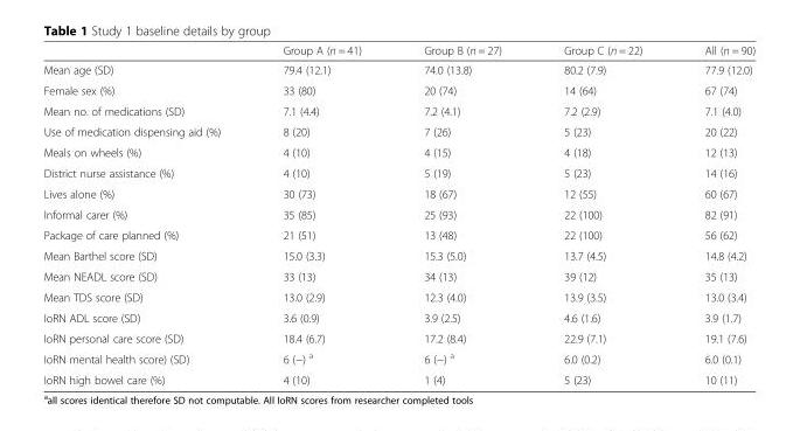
<table><thead><tr><td></td><td>Group A (n = 41)</td><td>Group B (n = 27)</td><td>Group C (n = 22)</td><td>All (n = 90)</td></tr></thead><tbody><tr><td>Mean age (SD)</td><td>79.4 (12.1)</td><td>74.0 (13.8)</td><td>80.2 (7.9)</td><td>77.9 (12.0)</td></tr><tr><td>Female sex (%)</td><td>33 (80)</td><td>20 (74)</td><td>14 (64)</td><td>67 (74)</td></tr><tr><td>Mean no. of medications (SD)</td><td>7.1 (4.4)</td><td>7.2 (4.1)</td><td>7.2 (2.9)</td><td>7.1 (4.0)</td></tr><tr><td>Use of medication dispensing aid (%)</td><td>8 (20)</td><td>7 (26)</td><td>5 (23)</td><td>20 (22)</td></tr><tr><td>Meals on wheels (%)</td><td>4 (10)</td><td>4 (15)</td><td>4 (18)</td><td>12 (13)</td></tr><tr><td>District nurse assistance (%)</td><td>4 (10)</td><td>5 (19)</td><td>5 (23)</td><td>14 (16)</td></tr><tr><td>Lives alone (%)</td><td>30 (73)</td><td>18 (67)</td><td>12 (55)</td><td>60 (67)</td></tr><tr><td>Informal carer (%)</td><td>35 (85)</td><td>25 (93)</td><td>22 (100)</td><td>82 (91)</td></tr><tr><td>Package of care planned (%)</td><td>21 (51)</td><td>13 (48)</td><td>22 (100)</td><td>56 (62)</td></tr><tr><td>Mean Barthel score (SD)</td><td>15.0 (3.3)</td><td>15.3 (5.0)</td><td>13.7 (4.5)</td><td>14.8 (4.2)</td></tr><tr><td>Mean NEADL score (SD)</td><td>33 (13)</td><td>34 (13)</td><td>39 (12)</td><td>35 (13)</td></tr><tr><td>Mean TDS score (SD)</td><td>13.0 (2.9)</td><td>12.3 (4.0)</td><td>13.9 (3.5)</td><td>13.0 (3.4)</td></tr><tr><td>IoRN ADL score (SD)</td><td>3.6 (0.9)</td><td>3.9 (2.5)</td><td>4.6 (1.6)</td><td>3.9 (1.7)</td></tr><tr><td>IoRN personal care score (SD)</td><td>18.4 (6.7)</td><td>17.2 (8.4)</td><td>22.9 (7.1)</td><td>19.1 (7.6)</td></tr><tr><td>IoRN mental health score) (SD)</td><td>6 (−) <sup>a</sup></td><td>6 (−) <sup>a</sup></td><td>6.0 (0.2)</td><td>6.0 (0.1)</td></tr><tr><td>IoRN high bowel care (%)</td><td>4 (10)</td><td>1 (4)</td><td>5 (23)</td><td>10 (11)</td></tr></tbody></table>